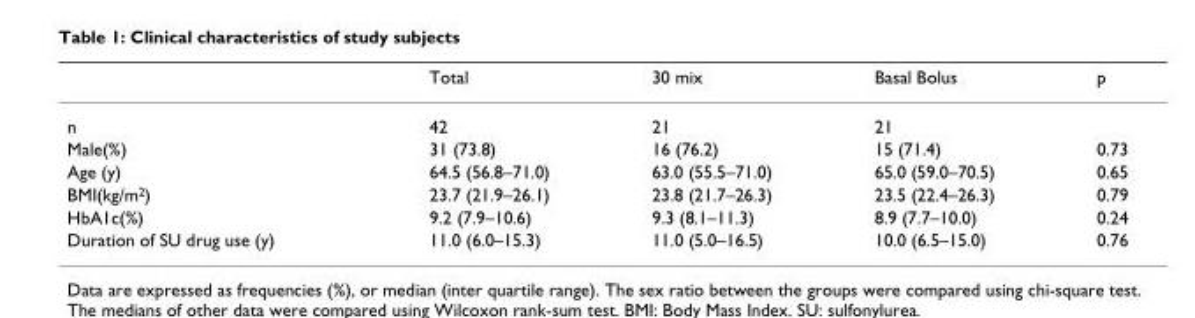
<table><thead><tr><td></td><td>Total</td><td>30 mix</td><td>Basal Bolus</td><td>p</td></tr></thead><tbody><tr><td>n</td><td>42</td><td>21</td><td>21</td><td></td></tr><tr><td>Male(%)</td><td>31 (73.8)</td><td>16 (76.2)</td><td>15 (71.4)</td><td>0.73</td></tr><tr><td>Age (y)</td><td>64.5 (56.8–71.0)</td><td>63.0 (55.5–71.0)</td><td>65.0 (59.0–70.5)</td><td>0.65</td></tr><tr><td>BMI(kg/m<sup>2</sup>)</td><td>23.7 (21.9–26.1)</td><td>23.8 (21.7–26.3)</td><td>23.5 (22.4–26.3)</td><td>0.79</td></tr><tr><td>HbA1c(%)</td><td>9.2 (7.9–10.6)</td><td>9.3 (8.1–11.3)</td><td>8.9 (7.7–10.0)</td><td>0.24</td></tr><tr><td>Duration of SU drug use (y)</td><td>11.0 (6.0–15.3)</td><td>11.0 (5.0–16.5)</td><td>10.0 (6.5–15.0)</td><td>0.76</td></tr></tbody></table>